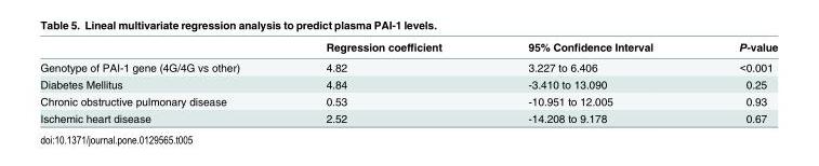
<table><thead><tr><td></td><td>Regression coefficient</td><td>95% Confidence Interval</td><td>P-value</td></tr></thead><tbody><tr><td>Genotype of PAI-1 gene (4G/4G vs other)</td><td>4.82</td><td>3.227 to 6.406</td><td>&lt;0.001</td></tr><tr><td>Diabetes Mellitus</td><td>4.84</td><td>-3.410 to 13.090</td><td>0.25</td></tr><tr><td>Chronic obstructive pulmonary disease</td><td>0.53</td><td>-10.951 to 12.005</td><td>0.93</td></tr><tr><td>Ischemic heart disease</td><td>2.52</td><td>-14.208 to 9.178</td><td>0.67</td></tr></tbody></table>